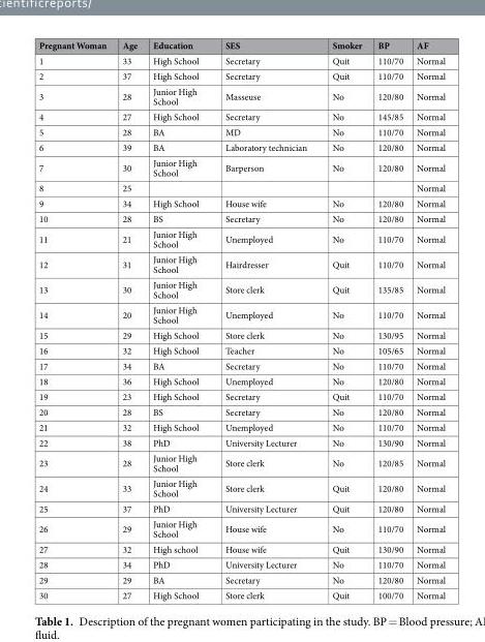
<table><thead><tr><td>Pregnant Woman</td><td>Age</td><td>Education</td><td>SES</td><td>Smoker</td><td>BP</td><td>AF</td></tr></thead><tbody><tr><td>1</td><td>33</td><td>High School</td><td>Secretary</td><td>Quit</td><td>110/70</td><td>Normal</td></tr><tr><td>2</td><td>37</td><td>High School</td><td>Secretary</td><td>Quit</td><td>110/70</td><td>Normal</td></tr><tr><td>3</td><td>28</td><td>Junior High School</td><td>Masseuse</td><td>No</td><td>120/80</td><td>Normal</td></tr><tr><td>4</td><td>27</td><td>High School</td><td>Secretary</td><td>No</td><td>145/85</td><td>Normal</td></tr><tr><td>5</td><td>28</td><td>BA</td><td>MD</td><td>No</td><td>110/70</td><td>Normal</td></tr><tr><td>6</td><td>39</td><td>BA</td><td>Laboratory technician</td><td>No</td><td>120/80</td><td>Normal</td></tr><tr><td>7</td><td>30</td><td>Junior High School</td><td>Barperson</td><td>No</td><td>120/80</td><td>Normal</td></tr><tr><td>8</td><td>25</td><td></td><td></td><td></td><td></td><td>Normal</td></tr><tr><td>9</td><td>34</td><td>High School</td><td>House wife</td><td>No</td><td>120/80</td><td>Normal</td></tr><tr><td>10</td><td>28</td><td>BS</td><td>Secretary</td><td>No</td><td>120/80</td><td>Normal</td></tr><tr><td>11</td><td>21</td><td>Junior High School</td><td>Unemployed</td><td>No</td><td>110/70</td><td>Normal</td></tr><tr><td>12</td><td>31</td><td>Junior High School</td><td>Hairdresser</td><td>Quit</td><td>110/70</td><td>Normal</td></tr><tr><td>13</td><td>30</td><td>Junior High School</td><td>Store clerk</td><td>Quit</td><td>135/85</td><td>Normal</td></tr><tr><td>14</td><td>20</td><td>Junior High School</td><td>Unemployed</td><td>No</td><td>110/70</td><td>Normal</td></tr><tr><td>15</td><td>29</td><td>High School</td><td>Store clerk</td><td>No</td><td>130/95</td><td>Normal</td></tr><tr><td>16</td><td>32</td><td>High School</td><td>Teacher</td><td>No</td><td>105/65</td><td>Normal</td></tr><tr><td>17</td><td>34</td><td>BA</td><td>Secretary</td><td>No</td><td>110/70</td><td>Normal</td></tr><tr><td>18</td><td>36</td><td>High School</td><td>Unemployed</td><td>No</td><td>120/80</td><td>Normal</td></tr><tr><td>19</td><td>23</td><td>High School</td><td>Secretary</td><td>Quit</td><td>110/70</td><td>Normal</td></tr><tr><td>20</td><td>28</td><td>BS</td><td>Secretary</td><td>No</td><td>120/80</td><td>Normal</td></tr><tr><td>21</td><td>32</td><td>High School</td><td>Unemployed</td><td>No</td><td>110/70</td><td>Normal</td></tr><tr><td>22</td><td>38</td><td>PhD</td><td>University Lecturer</td><td>No</td><td>130/90</td><td>Normal</td></tr><tr><td>23</td><td>28</td><td>Junior High School</td><td>Store clerk</td><td>No</td><td>120/85</td><td>Normal</td></tr><tr><td>24</td><td>33</td><td>Junior High School</td><td>Store clerk</td><td>Quit</td><td>120/80</td><td>Normal</td></tr><tr><td>25</td><td>37</td><td>PhD</td><td>University Lecturer</td><td>Quit</td><td>120/80</td><td>Normal</td></tr><tr><td>26</td><td>29</td><td>Junior High School</td><td>House wife</td><td>No</td><td>110/70</td><td>Normal</td></tr><tr><td>27</td><td>32</td><td>High school</td><td>House wife</td><td>Quit</td><td>130/90</td><td>Normal</td></tr><tr><td>28</td><td>34</td><td>PhD</td><td>University Lecturer</td><td>No</td><td>110/70</td><td>Normal</td></tr><tr><td>29</td><td>29</td><td>BA</td><td>Secretary</td><td>No</td><td>120/80</td><td>Normal</td></tr><tr><td>30</td><td>27</td><td>High School</td><td>Store clerk</td><td>Quit</td><td>100/70</td><td>Normal</td></tr></tbody></table>